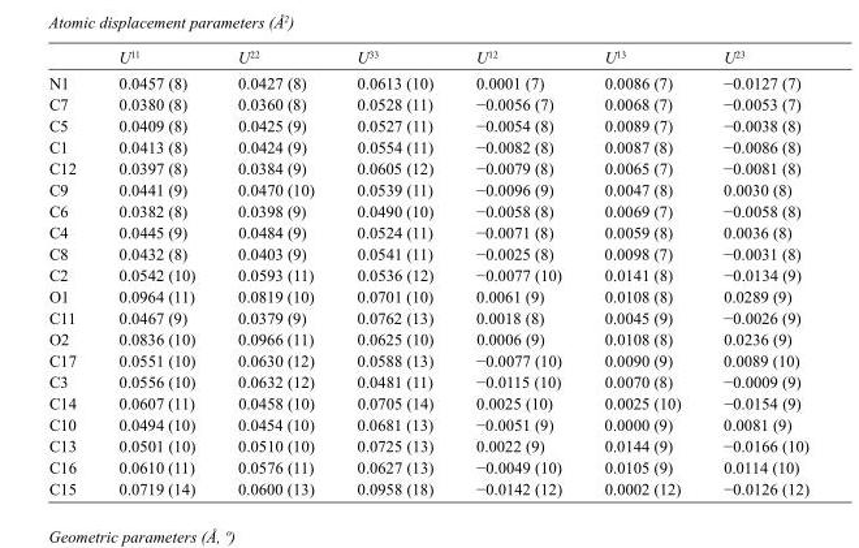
<table><thead><tr><td></td><td>U<sup>11</sup></td><td>U<sup>22</sup></td><td>U<sup>33</sup></td><td>U<sup>12</sup></td><td>U<sup>13</sup></td><td>U<sup>23</sup></td></tr></thead><tbody><tr><td>N1</td><td>0.0457 (8)</td><td>0.0427 (8)</td><td>0.0613 (10)</td><td>0.0001 (7)</td><td>0.0086 (7)</td><td>−0.0127 (7)</td></tr><tr><td>C7</td><td>0.0380 (8)</td><td>0.0360 (8)</td><td>0.0528 (11)</td><td>−0.0056 (7)</td><td>0.0068 (7)</td><td>−0.0053 (7)</td></tr><tr><td>C5</td><td>0.0409 (8)</td><td>0.0425 (9)</td><td>0.0527 (11)</td><td>−0.0054 (8)</td><td>0.0089 (7)</td><td>−0.0038 (8)</td></tr><tr><td>C1</td><td>0.0413 (8)</td><td>0.0424 (9)</td><td>0.0554 (11)</td><td>−0.0082 (8)</td><td>0.0087 (8)</td><td>−0.0086 (8)</td></tr><tr><td>C12</td><td>0.0397 (8)</td><td>0.0384 (9)</td><td>0.0605 (12)</td><td>−0.0079 (8)</td><td>0.0065 (7)</td><td>−0.0081 (8)</td></tr><tr><td>C9</td><td>0.0441 (9)</td><td>0.0470 (10)</td><td>0.0539 (11)</td><td>−0.0096 (9)</td><td>0.0047 (8)</td><td>0.0030 (8)</td></tr><tr><td>C6</td><td>0.0382 (8)</td><td>0.0398 (9)</td><td>0.0490 (10)</td><td>−0.0058 (8)</td><td>0.0069 (7)</td><td>−0.0058 (8)</td></tr><tr><td>C4</td><td>0.0445 (9)</td><td>0.0484 (9)</td><td>0.0524 (11)</td><td>−0.0071 (8)</td><td>0.0059 (8)</td><td>0.0036 (8)</td></tr><tr><td>C8</td><td>0.0432 (8)</td><td>0.0403 (9)</td><td>0.0541 (11)</td><td>−0.0025 (8)</td><td>0.0098 (7)</td><td>−0.0031 (8)</td></tr><tr><td>C2</td><td>0.0542 (10)</td><td>0.0593 (11)</td><td>0.0536 (12)</td><td>−0.0077 (10)</td><td>0.0141 (8)</td><td>−0.0134 (9)</td></tr><tr><td>O1</td><td>0.0964 (11)</td><td>0.0819 (10)</td><td>0.0701 (10)</td><td>0.0061 (9)</td><td>0.0108 (8)</td><td>0.0289 (9)</td></tr><tr><td>C11</td><td>0.0467 (9)</td><td>0.0379 (9)</td><td>0.0762 (13)</td><td>0.0018 (8)</td><td>0.0045 (9)</td><td>−0.0026 (9)</td></tr><tr><td>O2</td><td>0.0836 (10)</td><td>0.0966 (11)</td><td>0.0625 (10)</td><td>0.0006 (9)</td><td>0.0108 (8)</td><td>0.0236 (9)</td></tr><tr><td>C17</td><td>0.0551 (10)</td><td>0.0630 (12)</td><td>0.0588 (13)</td><td>−0.0077 (10)</td><td>0.0090 (9)</td><td>0.0089 (10)</td></tr><tr><td>C3</td><td>0.0556 (10)</td><td>0.0632 (12)</td><td>0.0481 (11)</td><td>−0.0115 (10)</td><td>0.0070 (8)</td><td>−0.0009 (9)</td></tr><tr><td>C14</td><td>0.0607 (11)</td><td>0.0458 (10)</td><td>0.0705 (14)</td><td>0.0025 (10)</td><td>0.0025 (10)</td><td>−0.0154 (9)</td></tr><tr><td>C10</td><td>0.0494 (10)</td><td>0.0454 (10)</td><td>0.0681 (13)</td><td>−0.0051 (9)</td><td>0.0000 (9)</td><td>0.0081 (9)</td></tr><tr><td>C13</td><td>0.0501 (10)</td><td>0.0510 (10)</td><td>0.0725 (13)</td><td>0.0022 (9)</td><td>0.0144 (9)</td><td>−0.0166 (10)</td></tr><tr><td>C16</td><td>0.0610 (11)</td><td>0.0576 (11)</td><td>0.0627 (13)</td><td>−0.0049 (10)</td><td>0.0105 (9)</td><td>0.0114 (10)</td></tr><tr><td>C15</td><td>0.0719 (14)</td><td>0.0600 (13)</td><td>0.0958 (18)</td><td>−0.0142 (12)</td><td>0.0002 (12)</td><td>−0.0126 (12)</td></tr></tbody></table>